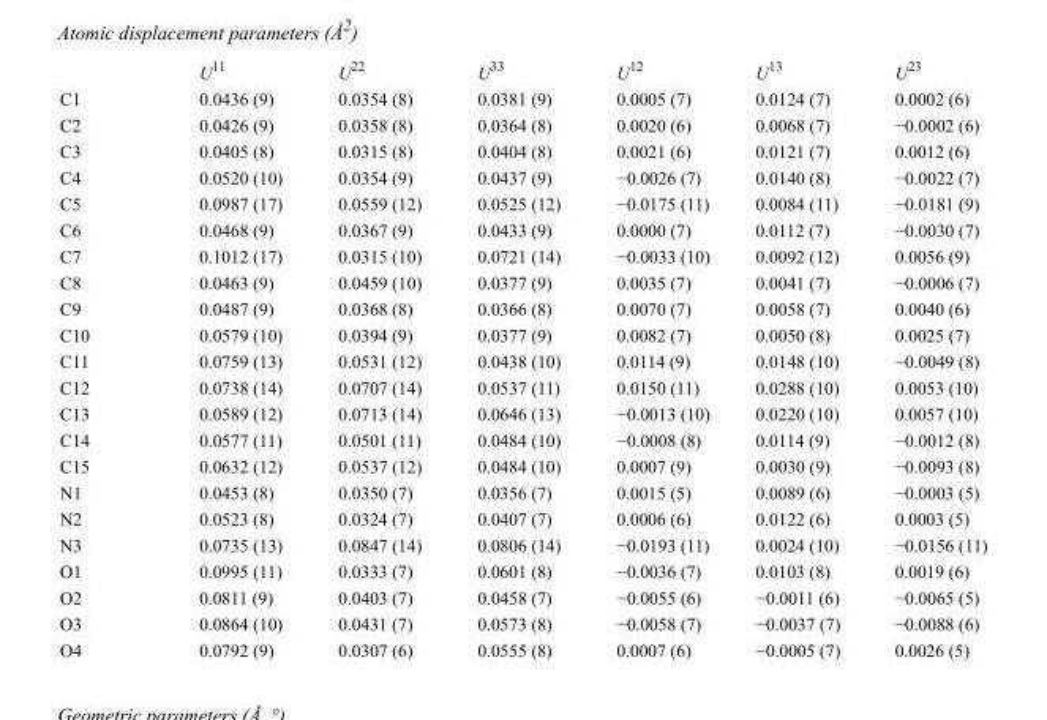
<table><thead><tr><td></td><td>U<sup>11</sup></td><td>U<sup>22</sup></td><td>U<sup>33</sup></td><td>U<sup>12</sup></td><td>U<sup>13</sup></td><td>U<sup>23</sup></td></tr></thead><tbody><tr><td>C1</td><td>0.0436 (9)</td><td>0.0354 (8)</td><td>0.0381 (9)</td><td>0.0005 (7)</td><td>0.0124 (7)</td><td>0.0002 (6)</td></tr><tr><td>C2</td><td>0.0426 (9)</td><td>0.0358 (8)</td><td>0.0364 (8)</td><td>0.0020 (6)</td><td>0.0068 (7)</td><td>−0.0002 (6)</td></tr><tr><td>C3</td><td>0.0405 (8)</td><td>0.0315 (8)</td><td>0.0404 (8)</td><td>0.0021 (6)</td><td>0.0121 (7)</td><td>0.0012 (6)</td></tr><tr><td>C4</td><td>0.0520 (10)</td><td>0.0354 (9)</td><td>0.0437 (9)</td><td>−0.0026 (7)</td><td>0.0140 (8)</td><td>−0.0022 (7)</td></tr><tr><td>C5</td><td>0.0987 (17)</td><td>0.0559 (12)</td><td>0.0525 (12)</td><td>−0.0175 (11)</td><td>0.0084 (11)</td><td>−0.0181 (9)</td></tr><tr><td>C6</td><td>0.0468 (9)</td><td>0.0367 (9)</td><td>0.0433 (9)</td><td>0.0000 (7)</td><td>0.0112 (7)</td><td>−0.0030 (7)</td></tr><tr><td>C7</td><td>0.1012 (17)</td><td>0.0315 (10)</td><td>0.0721 (14)</td><td>−0.0033 (10)</td><td>0.0092 (12)</td><td>0.0056 (9)</td></tr><tr><td>C8</td><td>0.0463 (9)</td><td>0.0459 (10)</td><td>0.0377 (9)</td><td>0.0035 (7)</td><td>0.0041 (7)</td><td>−0.0006 (7)</td></tr><tr><td>C9</td><td>0.0487 (9)</td><td>0.0368 (8)</td><td>0.0366 (8)</td><td>0.0070 (7)</td><td>0.0058 (7)</td><td>0.0040 (6)</td></tr><tr><td>C10</td><td>0.0579 (10)</td><td>0.0394 (9)</td><td>0.0377 (9)</td><td>0.0082 (7)</td><td>0.0050 (8)</td><td>0.0025 (7)</td></tr><tr><td>C11</td><td>0.0759 (13)</td><td>0.0531 (12)</td><td>0.0438 (10)</td><td>0.0114 (9)</td><td>0.0148 (10)</td><td>−0.0049 (8)</td></tr><tr><td>C12</td><td>0.0738 (14)</td><td>0.0707 (14)</td><td>0.0537 (11)</td><td>0.0150 (11)</td><td>0.0288 (10)</td><td>0.0053 (10)</td></tr><tr><td>C13</td><td>0.0589 (12)</td><td>0.0713 (14)</td><td>0.0646 (13)</td><td>−0.0013 (10)</td><td>0.0220 (10)</td><td>0.0057 (10)</td></tr><tr><td>C14</td><td>0.0577 (11)</td><td>0.0501 (11)</td><td>0.0484 (10)</td><td>−0.0008 (8)</td><td>0.0114 (9)</td><td>−0.0012 (8)</td></tr><tr><td>C15</td><td>0.0632 (12)</td><td>0.0537 (12)</td><td>0.0484 (10)</td><td>0.0007 (9)</td><td>0.0030 (9)</td><td>−0.0093 (8)</td></tr><tr><td>N1</td><td>0.0453 (8)</td><td>0.0350 (7)</td><td>0.0356 (7)</td><td>0.0015 (5)</td><td>0.0089 (6)</td><td>−0.0003 (5)</td></tr><tr><td>N2</td><td>0.0523 (8)</td><td>0.0324 (7)</td><td>0.0407 (7)</td><td>0.0006 (6)</td><td>0.0122 (6)</td><td>0.0003 (5)</td></tr><tr><td>N3</td><td>0.0735 (13)</td><td>0.0847 (14)</td><td>0.0806 (14)</td><td>−0.0193 (11)</td><td>0.0024 (10)</td><td>−0.0156 (11)</td></tr><tr><td>O1</td><td>0.0995 (11)</td><td>0.0333 (7)</td><td>0.0601 (8)</td><td>−0.0036 (7)</td><td>0.0103 (8)</td><td>0.0019 (6)</td></tr><tr><td>O2</td><td>0.0811 (9)</td><td>0.0403 (7)</td><td>0.0458 (7)</td><td>−0.0055 (6)</td><td>−0.0011 (6)</td><td>−0.0065 (5)</td></tr><tr><td>O3</td><td>0.0864 (10)</td><td>0.0431 (7)</td><td>0.0573 (8)</td><td>−0.0058 (7)</td><td>−0.0037 (7)</td><td>−0.0088 (6)</td></tr><tr><td>O4</td><td>0.0792 (9)</td><td>0.0307 (6)</td><td>0.0555 (8)</td><td>0.0007 (6)</td><td>−0.0005 (7)</td><td>0.0026 (5)</td></tr></tbody></table>